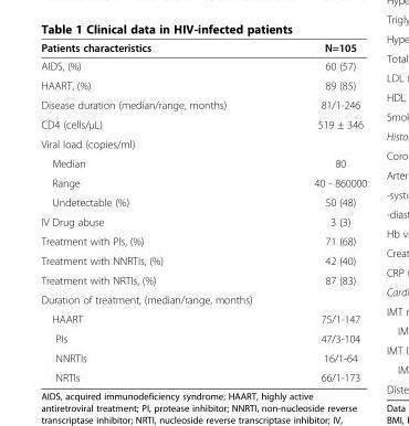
<table><thead><tr><td>Patients characteristics</td><td>N=105</td></tr></thead><tbody><tr><td>AIDS, (%)</td><td>60 (57)</td></tr><tr><td>HAART, (%)</td><td>89 (85)</td></tr><tr><td>Disease duration (median/range, months)</td><td>81/1-246</td></tr><tr><td>CD4 (cells/μL)</td><td>519 ± 346</td></tr><tr><td colspan="2">Viral load (copies/ml)</td></tr><tr><td>Median</td><td>80</td></tr><tr><td>Range</td><td>40 - 860000</td></tr><tr><td>Undetectable (%)</td><td>50 (48)</td></tr><tr><td>IV Drug abuse</td><td>3 (3)</td></tr><tr><td>Treatment with PIs, (%)</td><td>71 (68)</td></tr><tr><td>Treatment with NNRTIs, (%)</td><td>42 (40)</td></tr><tr><td>Treatment with NRTIs, (%)</td><td>87 (83)</td></tr><tr><td colspan="2">Duration of treatment, (median/range, months)</td></tr><tr><td>HAART</td><td>75/1-147</td></tr><tr><td>PIs</td><td>47/3-104</td></tr><tr><td>NNRTIs</td><td>16/1-64</td></tr><tr><td>NRTIs</td><td>66/1-173</td></tr></tbody></table>